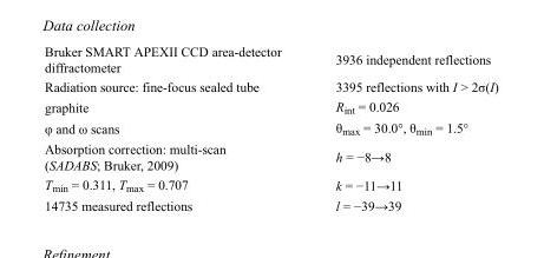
<table><tbody><tr><td>Bruker SMART APEXII CCD area-detector diffractometer</td><td>3936 independent reflections</td></tr><tr><td>Radiation source: fine-focus sealed tube</td><td>3395 reflections with I &gt; 2σ(I)</td></tr><tr><td>graphite</td><td>R<sub>int</sub> = 0.026</td></tr><tr><td>φ and ω scans</td><td>θ<sub>max</sub> = 30.0°, θ<sub>min</sub> = 1.5°</td></tr><tr><td>Absorption correction: multi-scan (SADABS; Bruker, 2009)</td><td>h = −8→8</td></tr><tr><td>T<sub>min</sub> = 0.311, T<sub>max</sub> = 0.707</td><td>k = −11→11</td></tr><tr><td>14735 measured reflections</td><td>l = −39→39</td></tr></tbody></table>